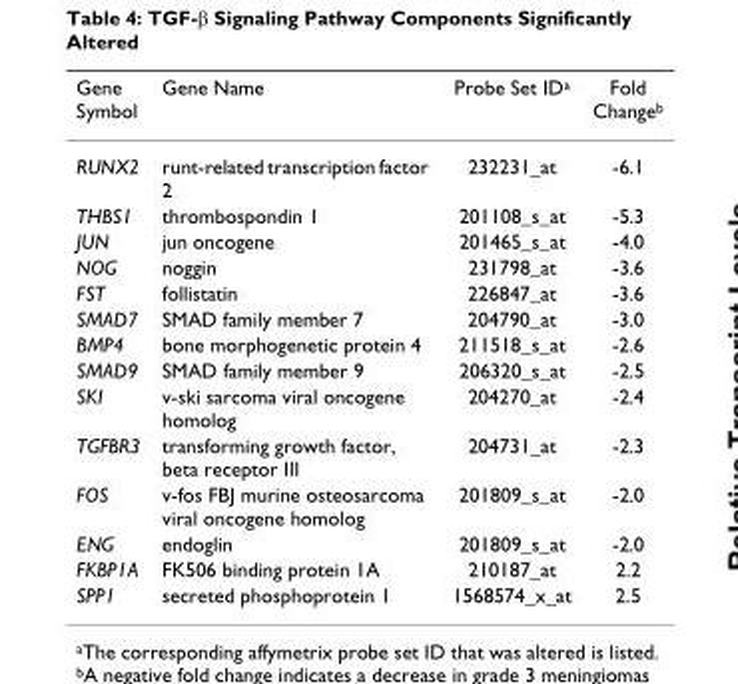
<table><thead><tr><td>Gene Symbol</td><td>Gene Name</td><td>Probe Set ID<sup>a</sup></td><td>Fold Change<sup>b</sup></td></tr></thead><tbody><tr><td>RUNX2</td><td>runt-related transcription factor 2</td><td>232231_at</td><td>-6.1</td></tr><tr><td>THBS1</td><td>thrombospondin 1</td><td>201108_s_at</td><td>-5.3</td></tr><tr><td>JUN</td><td>jun oncogene</td><td>201465_s_at</td><td>-4.0</td></tr><tr><td>NOG</td><td>noggin</td><td>231798_at</td><td>-3.6</td></tr><tr><td>FST</td><td>follistatin</td><td>226847_at</td><td>-3.6</td></tr><tr><td>SMAD7</td><td>SMAD family member 7</td><td>204790_at</td><td>-3.0</td></tr><tr><td>BMP4</td><td>bone morphogenetic protein 4</td><td>211518_s_at</td><td>-2.6</td></tr><tr><td>SMAD9</td><td>SMAD family member 9</td><td>206320_s_at</td><td>-2.5</td></tr><tr><td>SKI</td><td>v-ski sarcoma viral oncogene homolog</td><td>204270_at</td><td>-2.4</td></tr><tr><td>TGFBR3</td><td>transforming growth factor, beta receptor III</td><td>204731_at</td><td>-2.3</td></tr><tr><td>FOS</td><td>v-fos FBJ murine osteosarcoma viral oncogene homolog</td><td>201809_s_at</td><td>-2.0</td></tr><tr><td>ENG</td><td>endoglin</td><td>201809_s_at</td><td>-2.0</td></tr><tr><td>FKBP1A</td><td>FK506 binding protein 1A</td><td>210187_at</td><td>2.2</td></tr><tr><td>SPP1</td><td>secreted phosphoprotein 1</td><td>1568574_x_at</td><td>2.5</td></tr></tbody></table>